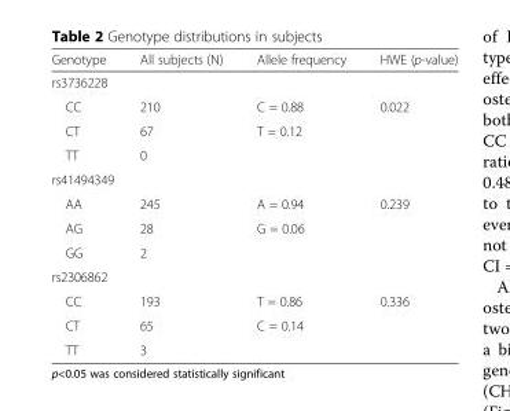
<table><thead><tr><td>Genotype</td><td>All subjects (N)</td><td>Allele frequency</td><td>HWE (p-value)</td></tr></thead><tbody><tr><td colspan="4">rs3736228</td></tr><tr><td>CC</td><td>210</td><td>C = 0.88</td><td>0.022</td></tr><tr><td>CT</td><td>67</td><td>T = 0.12</td><td></td></tr><tr><td>TT</td><td>0</td><td></td><td></td></tr><tr><td colspan="4">rs41494349</td></tr><tr><td>AA</td><td>245</td><td>A = 0.94</td><td>0.239</td></tr><tr><td>AG</td><td>28</td><td>G = 0.06</td><td></td></tr><tr><td>GG</td><td>2</td><td></td><td></td></tr><tr><td colspan="4">rs2306862</td></tr><tr><td>CC</td><td>193</td><td>T = 0.86</td><td>0.336</td></tr><tr><td>CT</td><td>65</td><td>C = 0.14</td><td></td></tr><tr><td>TT</td><td>3</td><td></td><td></td></tr></tbody></table>